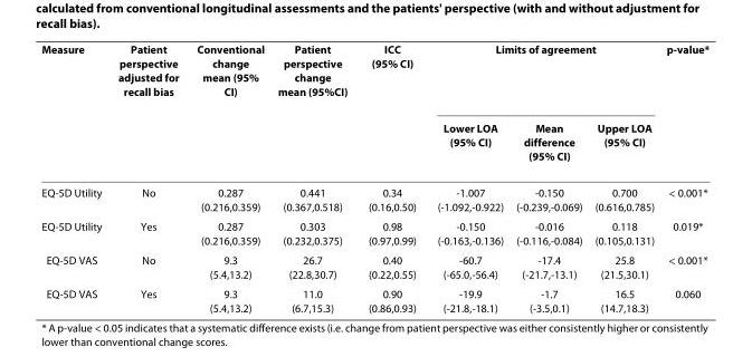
<table><thead><tr><td rowspan="2">Measure</td><td rowspan="2">Patient perspective adjusted for recall bias</td><td rowspan="2">Conventional change mean (95% CI)</td><td rowspan="2">Patient perspective change mean (95%CI)</td><td rowspan="2">ICC (95% CI)</td><td colspan="3">Limits of agreement</td><td rowspan="2">p-value*</td></tr><tr><td>Lower LOA (95% CI)</td><td>Mean difference (95% CI)</td><td>Upper LOA (95% CI)</td></tr></thead><tbody><tr><td>EQ-5D Utility</td><td>No</td><td>0.287 (0.216,0.359)</td><td>0.441 (0.367,0.518)</td><td>0.34 (0.16,0.50)</td><td>-1.007 (-1.092,-0.922)</td><td>-0.150 (-0.239,-0.069)</td><td>0.700 (0.616,0.785)</td><td>&lt; 0.001*</td></tr><tr><td>EQ-5D Utility</td><td>Yes</td><td>0.287 (0.216,0.359)</td><td>0.303 (0.232,0.375)</td><td>0.98 (0.97,0.99)</td><td>-0.150 (-0.163,-0.136)</td><td>-0.016 (-0.116,-0.084)</td><td>0.118 (0.105,0.131)</td><td>0.019*</td></tr><tr><td>EQ-5D VAS</td><td>No</td><td>9.3 (5.4,13.2)</td><td>26.7 (22.8,30.7)</td><td>0.40 (0.22,0.55)</td><td>-60.7 (-65.0,-56.4)</td><td>-17.4 (-21.7,-13.1)</td><td>25.8 (21.5,30.1)</td><td>&lt; 0.001*</td></tr><tr><td>EQ-5D VAS</td><td>Yes</td><td>9.3 (5.4,13.2)</td><td>11.0 (6.7,15.3)</td><td>0.90 (0.86,0.93)</td><td>-19.9 (-21.8,-18.1)</td><td>-1.7 (-3.5,0.1)</td><td>16.5 (14.7,18.3)</td><td>0.060</td></tr></tbody></table>